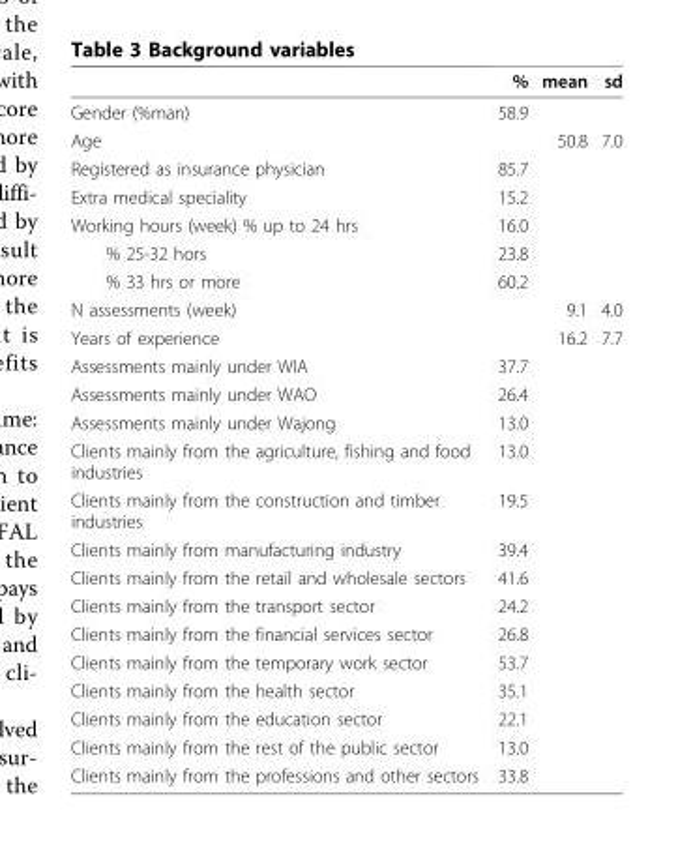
<table><thead><tr><td></td><td>%</td><td>mean</td><td>sd</td></tr></thead><tbody><tr><td>Gender (%man)</td><td>58.9</td><td></td><td></td></tr><tr><td>Age</td><td></td><td>50.8</td><td>7.0</td></tr><tr><td>Registered as insurance physician</td><td>85.7</td><td></td><td></td></tr><tr><td>Extra medical speciality</td><td>15.2</td><td></td><td></td></tr><tr><td>Working hours (week) % up to 24 hrs</td><td>16.0</td><td></td><td></td></tr><tr><td>% 25-32 hors</td><td>23.8</td><td></td><td></td></tr><tr><td>% 33 hrs or more</td><td>60.2</td><td></td><td></td></tr><tr><td>N assessments (week)</td><td></td><td>9.1</td><td>4.0</td></tr><tr><td>Years of experience</td><td></td><td>16.2</td><td>7.7</td></tr><tr><td>Assessments mainly under WIA</td><td>37.7</td><td></td><td></td></tr><tr><td>Assessments mainly under WAO</td><td>26.4</td><td></td><td></td></tr><tr><td>Assessments mainly under Wajong</td><td>13.0</td><td></td><td></td></tr><tr><td>Clients mainly from the agriculture, fishing and food industries</td><td>13.0</td><td></td><td></td></tr><tr><td>Clients mainly from the construction and timber industries</td><td>19.5</td><td></td><td></td></tr><tr><td>Clients mainly from manufacturing industry</td><td>39.4</td><td></td><td></td></tr><tr><td>Clients mainly from the retail and wholesale sectors</td><td>41.6</td><td></td><td></td></tr><tr><td>Clients mainly from the transport sector</td><td>24.2</td><td></td><td></td></tr><tr><td>Clients mainly from the financial services sector</td><td>26.8</td><td></td><td></td></tr><tr><td>Clients mainly from the temporary work sector</td><td>53.7</td><td></td><td></td></tr><tr><td>Clients mainly from the health sector</td><td>35.1</td><td></td><td></td></tr><tr><td>Clients mainly from the education sector</td><td>22.1</td><td></td><td></td></tr><tr><td>Clients mainly from the rest of the public sector</td><td>13.0</td><td></td><td></td></tr><tr><td>Clients mainly from the professions and other sectors</td><td>33.8</td><td></td><td></td></tr></tbody></table>